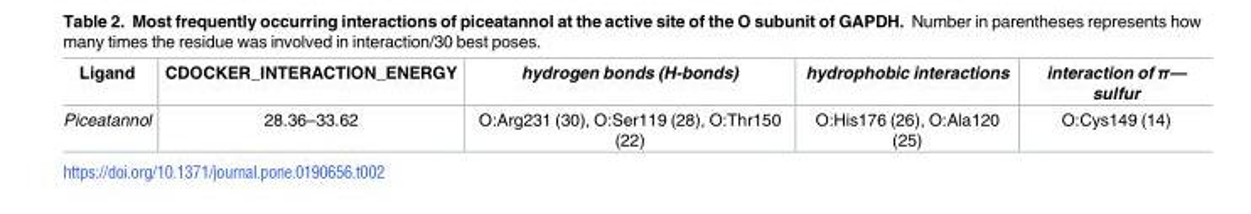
<table><thead><tr><td>Ligand</td><td>CDOCKER_INTERACTION_ENERGY</td><td>hydrogen bonds (H-bonds)</td><td>hydrophobic interactions</td><td>interaction of π— sulfur</td></tr></thead><tbody><tr><td>Piceatannol</td><td>28.36–33.62</td><td>O:Arg231 (30), O:Ser119 (28), O:Thr150 (22)</td><td>O:His176 (26), O:Ala120 (25)</td><td>O:Cys149 (14)</td></tr></tbody></table>